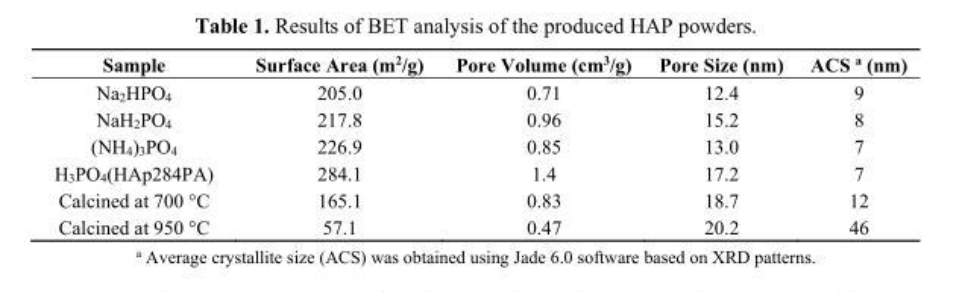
<table><thead><tr><td>Sample</td><td>Surface Area (m<sup>2</sup>/g)</td><td>Pore Volume (cm<sup>3</sup>/g)</td><td>Pore Size (nm)</td><td>ACS <sup>a</sup> (nm)</td></tr></thead><tbody><tr><td>Na<sub>2</sub>HPO<sub>4</sub></td><td>205.0</td><td>0.71</td><td>12.4</td><td>9</td></tr><tr><td>NaH<sub>2</sub>PO<sub>4</sub></td><td>217.8</td><td>0.96</td><td>15.2</td><td>8</td></tr><tr><td>(NH<sub>4</sub>)<sub>3</sub>PO<sub>4</sub></td><td>226.9</td><td>0.85</td><td>13.0</td><td>7</td></tr><tr><td>H<sub>3</sub>PO<sub>4</sub>(HAp284PA)</td><td>284.1</td><td>1.4</td><td>17.2</td><td>7</td></tr><tr><td>Calcined at 700 °C</td><td>165.1</td><td>0.83</td><td>18.7</td><td>12</td></tr><tr><td>Calcined at 950 °C</td><td>57.1</td><td>0.47</td><td>20.2</td><td>46</td></tr></tbody></table>